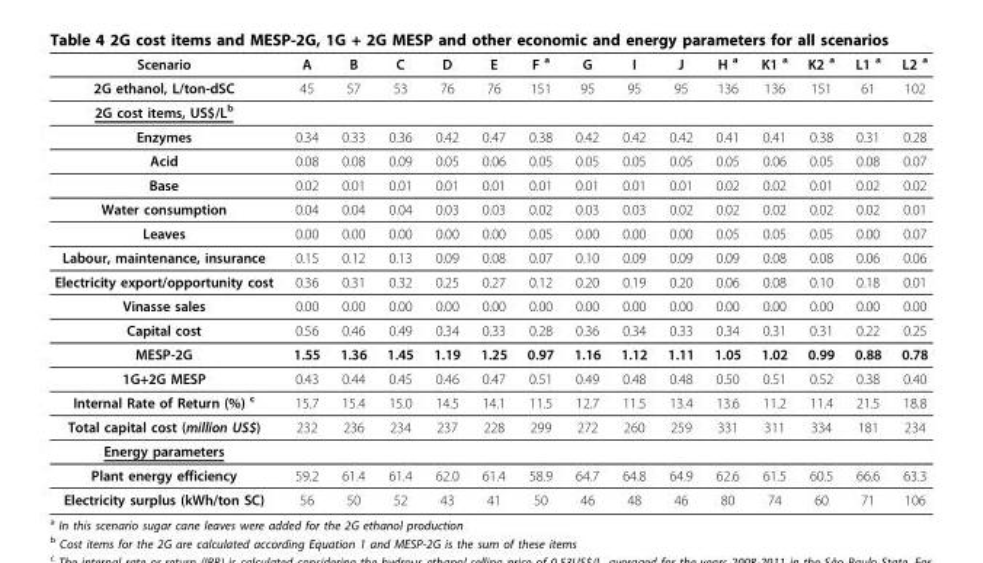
<table><thead><tr><td>Scenario</td><td>A</td><td>B</td><td>C</td><td>D</td><td>E</td><td>F <sup>a</sup></td><td>G</td><td>I</td><td>J</td><td>H <sup>a</sup></td><td>K1 <sup>a</sup></td><td>K2 <sup>a</sup></td><td>L1 <sup>a</sup></td><td>L2 <sup>a</sup></td></tr></thead><tbody><tr><td>2G ethanol, L/ton-dSC</td><td>45</td><td>57</td><td>53</td><td>76</td><td>76</td><td>151</td><td>95</td><td>95</td><td>95</td><td>136</td><td>136</td><td>151</td><td>61</td><td>102</td></tr><tr><td colspan="15">2G cost items, US$/L<sup>b</sup></td></tr><tr><td>Enzymes</td><td>0.34</td><td>0.33</td><td>0.36</td><td>0.42</td><td>0.47</td><td>0.38</td><td>0.42</td><td>0.42</td><td>0.42</td><td>0.41</td><td>0.41</td><td>0.38</td><td>0.31</td><td>0.28</td></tr><tr><td>Acid</td><td>0.08</td><td>0.08</td><td>0.09</td><td>0.05</td><td>0.06</td><td>0.05</td><td>0.05</td><td>0.05</td><td>0.05</td><td>0.05</td><td>0.06</td><td>0.05</td><td>0.08</td><td>0.07</td></tr><tr><td>Base</td><td>0.02</td><td>0.01</td><td>0.01</td><td>0.01</td><td>0.01</td><td>0.01</td><td>0.01</td><td>0.01</td><td>0.01</td><td>0.02</td><td>0.02</td><td>0.01</td><td>0.02</td><td>0.02</td></tr><tr><td>Water consumption</td><td>0.04</td><td>0.04</td><td>0.04</td><td>0.03</td><td>0.03</td><td>0.02</td><td>0.03</td><td>0.03</td><td>0.02</td><td>0.02</td><td>0.02</td><td>0.02</td><td>0.02</td><td>0.01</td></tr><tr><td>Leaves</td><td>0.00</td><td>0.00</td><td>0.00</td><td>0.00</td><td>0.00</td><td>0.05</td><td>0.00</td><td>0.00</td><td>0.00</td><td>0.05</td><td>0.05</td><td>0.05</td><td>0.00</td><td>0.07</td></tr><tr><td>Labour, maintenance, insurance</td><td>0.15</td><td>0.12</td><td>0.13</td><td>0.09</td><td>0.08</td><td>0.07</td><td>0.10</td><td>0.09</td><td>0.09</td><td>0.09</td><td>0.08</td><td>0.08</td><td>0.06</td><td>0.06</td></tr><tr><td>Electricity export/opportunity cost</td><td>0.36</td><td>0.31</td><td>0.32</td><td>0.25</td><td>0.27</td><td>0.12</td><td>0.20</td><td>0.19</td><td>0.20</td><td>0.06</td><td>0.08</td><td>0.10</td><td>0.18</td><td>0.01</td></tr><tr><td>Vinasse sales</td><td>0.00</td><td>0.00</td><td>0.00</td><td>0.00</td><td>0.00</td><td>0.00</td><td>0.00</td><td>0.00</td><td>0.00</td><td>0.00</td><td>0.00</td><td>0.00</td><td>0.00</td><td>0.00</td></tr><tr><td>Capital cost</td><td>0.56</td><td>0.46</td><td>0.49</td><td>0.34</td><td>0.33</td><td>0.28</td><td>0.36</td><td>0.34</td><td>0.33</td><td>0.34</td><td>0.31</td><td>0.31</td><td>0.22</td><td>0.25</td></tr><tr><td>MESP-2G</td><td>1.55</td><td>1.36</td><td>1.45</td><td>1.19</td><td>1.25</td><td>0.97</td><td>1.16</td><td>1.12</td><td>1.11</td><td>1.05</td><td>1.02</td><td>0.99</td><td>0.88</td><td>0.78</td></tr><tr><td>1G+2G MESP</td><td>0.43</td><td>0.44</td><td>0.45</td><td>0.46</td><td>0.47</td><td>0.51</td><td>0.49</td><td>0.48</td><td>0.48</td><td>0.50</td><td>0.51</td><td>0.52</td><td>0.38</td><td>0.40</td></tr><tr><td>Internal Rate of Return (%) <sup>c</sup></td><td>15.7</td><td>15.4</td><td>15.0</td><td>14.5</td><td>14.1</td><td>11.5</td><td>12.7</td><td>11.5</td><td>13.4</td><td>13.6</td><td>11.2</td><td>11.4</td><td>21.5</td><td>18.8</td></tr><tr><td>Total capital cost (million US$)</td><td>232</td><td>236</td><td>234</td><td>237</td><td>228</td><td>299</td><td>272</td><td>260</td><td>259</td><td>331</td><td>311</td><td>334</td><td>181</td><td>234</td></tr><tr><td colspan="15">Energy parameters</td></tr><tr><td>Plant energy efficiency</td><td>59.2</td><td>61.4</td><td>61.4</td><td>62.0</td><td>61.4</td><td>58.9</td><td>64.7</td><td>64.8</td><td>64.9</td><td>62.6</td><td>61.5</td><td>60.5</td><td>66.6</td><td>63.3</td></tr><tr><td>Electricity surplus (kWh/ton SC)</td><td>56</td><td>50</td><td>52</td><td>43</td><td>41</td><td>50</td><td>46</td><td>48</td><td>46</td><td>80</td><td>74</td><td>60</td><td>71</td><td>106</td></tr></tbody></table>